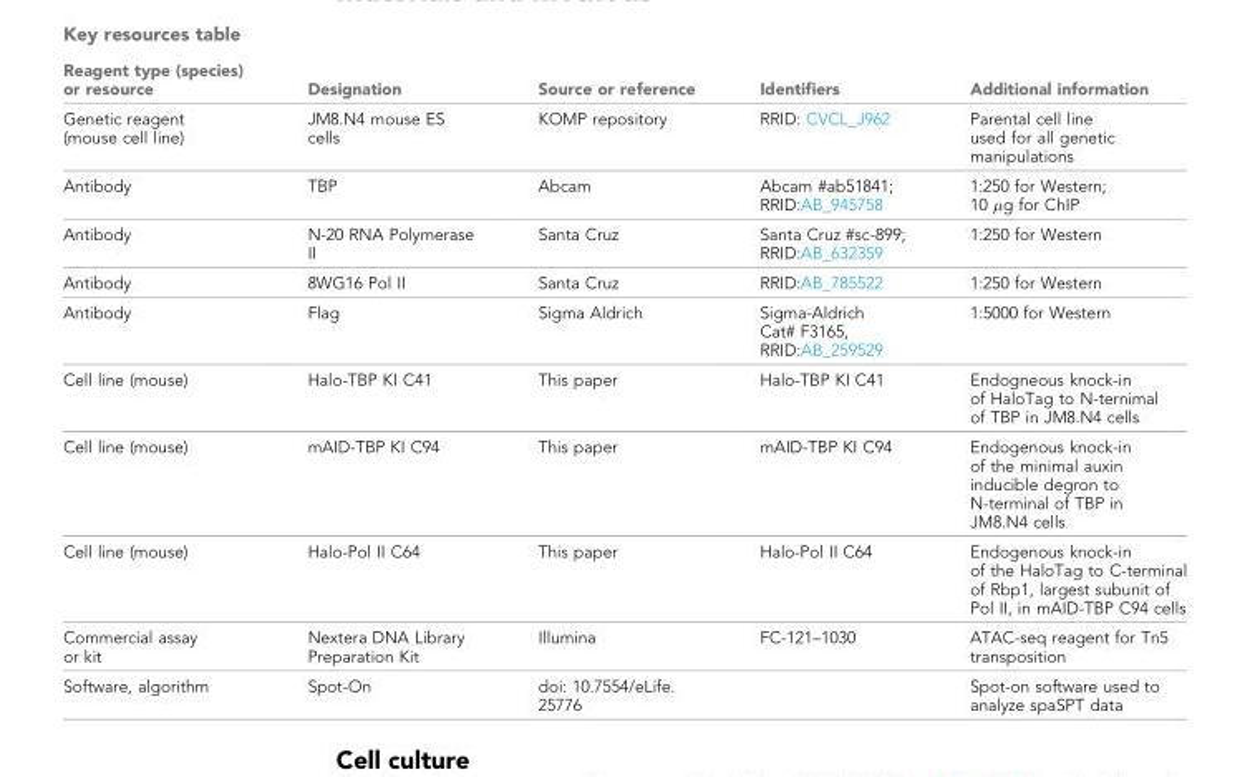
<table><thead><tr><td>Reagent type (species) or resource</td><td>Designation</td><td>Source or reference</td><td>Identifiers</td><td>Additional information</td></tr></thead><tbody><tr><td>Genetic reagent (mouse cell line)</td><td>JM8.N4 mouse ES cells</td><td>KOMP repository</td><td>RRID: CVCL_J962</td><td>Parental cell line used for all genetic manipulations</td></tr><tr><td>Antibody</td><td>TBP</td><td>Abcam</td><td>Abcam #ab51841; RRID:AB_945758</td><td>1:250 for Western; 10 μg for ChIP</td></tr><tr><td>Antibody</td><td>N-20 RNA Polymerase II</td><td>Santa Cruz</td><td>Santa Cruz #sc-899; RRID:AB_632359</td><td>1:250 for Western</td></tr><tr><td>Antibody</td><td>8WG16 Pol II</td><td>Santa Cruz</td><td>RRID:AB_785522</td><td>1:250 for Western</td></tr><tr><td>Antibody</td><td>Flag</td><td>Sigma Aldrich</td><td>Sigma-Aldrich Cat# F3165, RRID:AB_259529</td><td>1:5000 for Western</td></tr><tr><td>Cell line (mouse)</td><td>Halo-TBP KI C41</td><td>This paper</td><td>Halo-TBP KI C41</td><td>Endogneous knock-in of HaloTag to N-ternimal of TBP in JM8.N4 cells</td></tr><tr><td>Cell line (mouse)</td><td>mAID-TBP KI C94</td><td>This paper</td><td>mAID-TBP KI C94</td><td>Endogenous knock-in of the minimal auxin inducible degron to N-terminal of TBP in JM8.N4 cells</td></tr><tr><td>Cell line (mouse)</td><td>Halo-Pol II C64</td><td>This paper</td><td>Halo-Pol II C64</td><td>Endogenous knock-in of the HaloTag to C-terminal of Rbp1, largest subunit of Pol II, in mAID-TBP C94 cells</td></tr><tr><td>Commercial assay or kit</td><td>Nextera DNA Library Preparation Kit</td><td>Illumina</td><td>FC-121–1030</td><td>ATAC-seq reagent for Tn5 transposition</td></tr><tr><td>Software, algorithm</td><td>Spot-On</td><td>doi: 10.7554/eLife. 25776</td><td></td><td>Spot-on software used to analyze spaSPT data</td></tr></tbody></table>